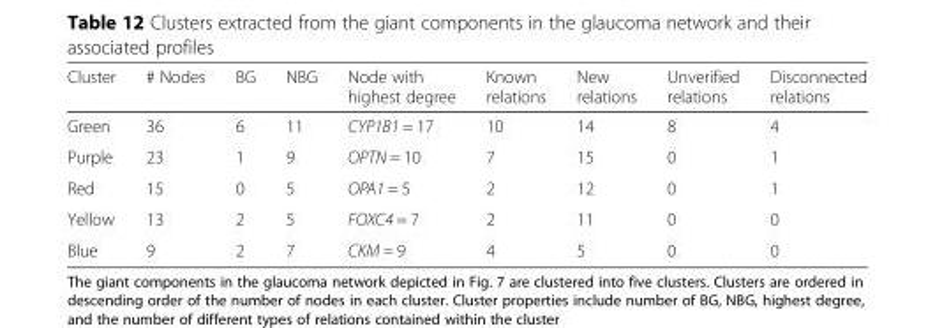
<table><thead><tr><td>Cluster</td><td># Nodes</td><td>BG</td><td>NBG</td><td>Node with highest degree</td><td>Known relations</td><td>New relations</td><td>Unverified relations</td><td>Disconnected relations</td></tr></thead><tbody><tr><td>Green</td><td>36</td><td>6</td><td>11</td><td>CYP1B1 = 17</td><td>10</td><td>14</td><td>8</td><td>4</td></tr><tr><td>Purple</td><td>23</td><td>1</td><td>9</td><td>OPTN = 10</td><td>7</td><td>15</td><td>0</td><td>1</td></tr><tr><td>Red</td><td>15</td><td>0</td><td>5</td><td>OPA1 = 5</td><td>2</td><td>12</td><td>0</td><td>1</td></tr><tr><td>Yellow</td><td>13</td><td>2</td><td>5</td><td>FOXC4 = 7</td><td>2</td><td>11</td><td>0</td><td>0</td></tr><tr><td>Blue</td><td>9</td><td>2</td><td>7</td><td>CKM = 9</td><td>4</td><td>5</td><td>0</td><td>0</td></tr></tbody></table>